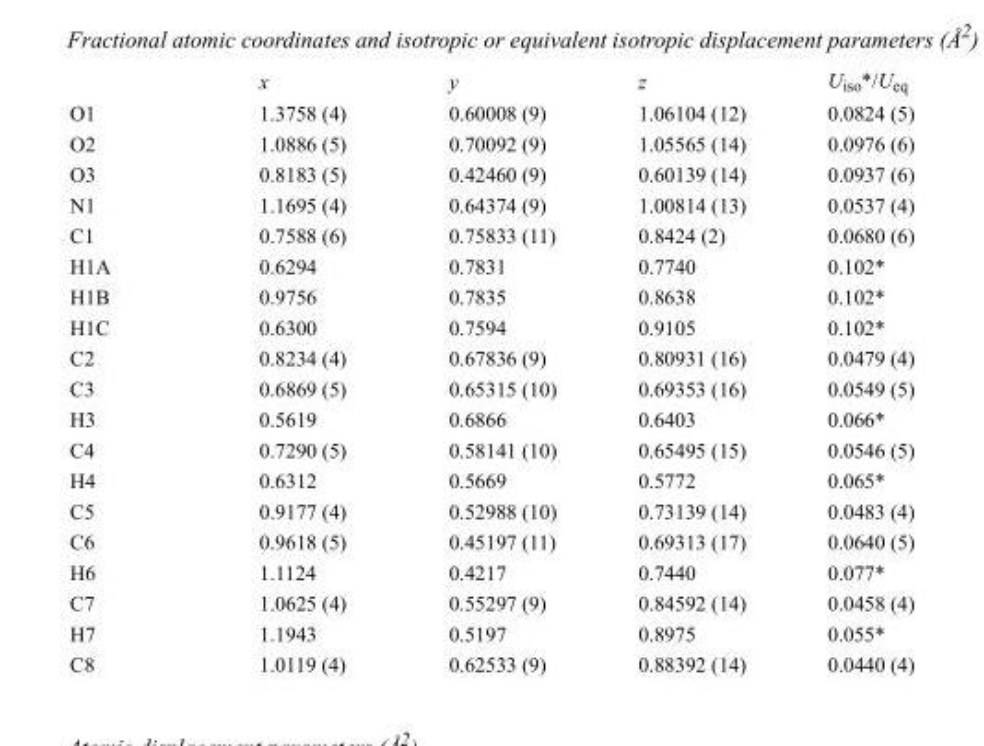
<table><thead><tr><td></td><td>x</td><td>y</td><td>z</td><td>U<sub>iso</sub>*/U<sub>eq</sub></td></tr></thead><tbody><tr><td>O1</td><td>1.3758 (4)</td><td>0.60008 (9)</td><td>1.06104 (12)</td><td>0.0824 (5)</td></tr><tr><td>O2</td><td>1.0886 (5)</td><td>0.70092 (9)</td><td>1.05565 (14)</td><td>0.0976 (6)</td></tr><tr><td>O3</td><td>0.8183 (5)</td><td>0.42460 (9)</td><td>0.60139 (14)</td><td>0.0937 (6)</td></tr><tr><td>N1</td><td>1.1695 (4)</td><td>0.64374 (9)</td><td>1.00814 (13)</td><td>0.0537 (4)</td></tr><tr><td>C1</td><td>0.7588 (6)</td><td>0.75833 (11)</td><td>0.8424 (2)</td><td>0.0680 (6)</td></tr><tr><td>H1A</td><td>0.6294</td><td>0.7831</td><td>0.7740</td><td>0.102*</td></tr><tr><td>H1B</td><td>0.9756</td><td>0.7835</td><td>0.8638</td><td>0.102*</td></tr><tr><td>H1C</td><td>0.6300</td><td>0.7594</td><td>0.9105</td><td>0.102*</td></tr><tr><td>C2</td><td>0.8234 (4)</td><td>0.67836 (9)</td><td>0.80931 (16)</td><td>0.0479 (4)</td></tr><tr><td>C3</td><td>0.6869 (5)</td><td>0.65315 (10)</td><td>0.69353 (16)</td><td>0.0549 (5)</td></tr><tr><td>H3</td><td>0.5619</td><td>0.6866</td><td>0.6403</td><td>0.066*</td></tr><tr><td>C4</td><td>0.7290 (5)</td><td>0.58141 (10)</td><td>0.65495 (15)</td><td>0.0546 (5)</td></tr><tr><td>H4</td><td>0.6312</td><td>0.5669</td><td>0.5772</td><td>0.065*</td></tr><tr><td>C5</td><td>0.9177 (4)</td><td>0.52988 (10)</td><td>0.73139 (14)</td><td>0.0483 (4)</td></tr><tr><td>C6</td><td>0.9618 (5)</td><td>0.45197 (11)</td><td>0.69313 (17)</td><td>0.0640 (5)</td></tr><tr><td>H6</td><td>1.1124</td><td>0.4217</td><td>0.7440</td><td>0.077*</td></tr><tr><td>C7</td><td>1.0625 (4)</td><td>0.55297 (9)</td><td>0.84592 (14)</td><td>0.0458 (4)</td></tr><tr><td>H7</td><td>1.1943</td><td>0.5197</td><td>0.8975</td><td>0.055*</td></tr><tr><td>C8</td><td>1.0119 (4)</td><td>0.62533 (9)</td><td>0.88392 (14)</td><td>0.0440 (4)</td></tr></tbody></table>